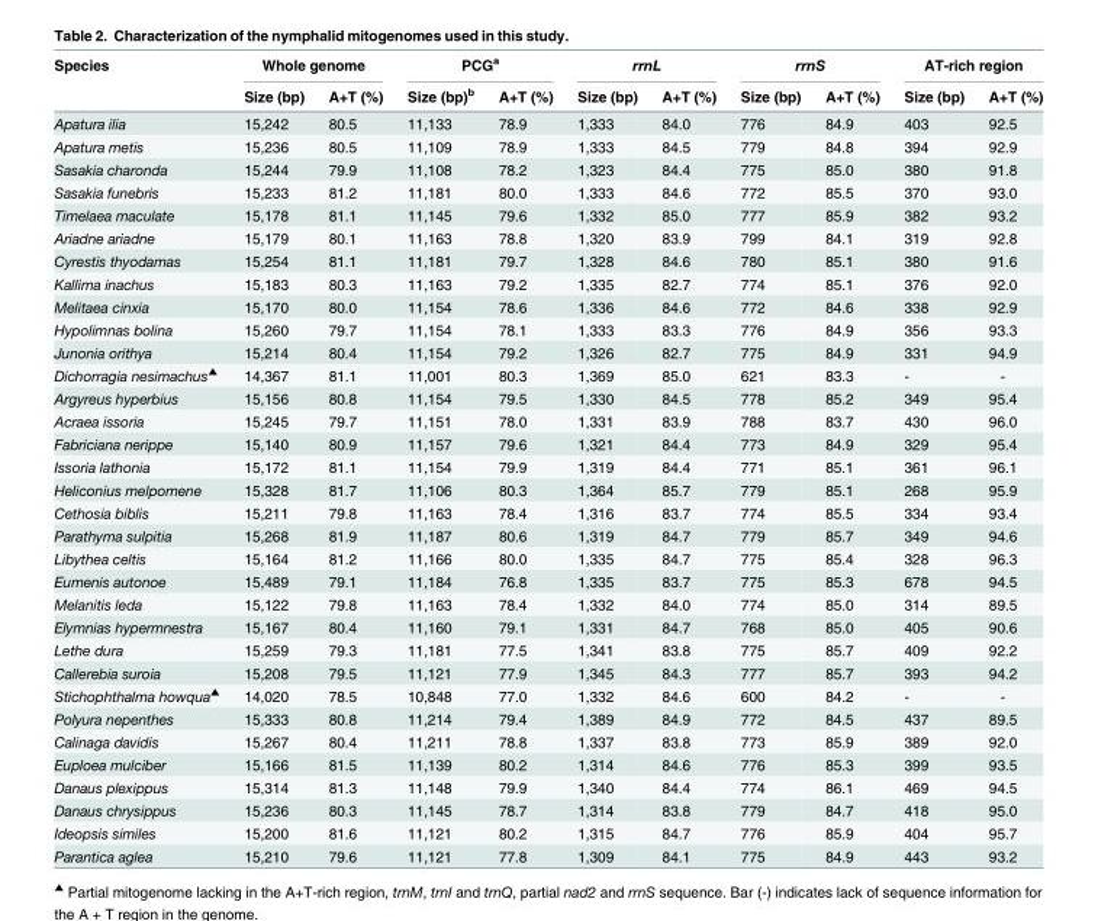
<table><thead><tr><td rowspan="2">Species</td><td colspan="2">Whole genome</td><td colspan="2">PCG<sup>a</sup></td><td colspan="2">rrnL</td><td colspan="2">rrnS</td><td colspan="2">AT-rich region</td></tr><tr><td>Size (bp)</td><td>A+T (%)</td><td>Size (bp)<sup>b</sup></td><td>A+T (%)</td><td>Size (bp)</td><td>A+T (%)</td><td>Size (bp)</td><td>A+T (%)</td><td>Size (bp)</td><td>A+T (%)</td></tr></thead><tbody><tr><td>Apatura ilia</td><td>15,242</td><td>80.5</td><td>11,133</td><td>78.9</td><td>1,333</td><td>84.0</td><td>776</td><td>84.9</td><td>403</td><td>92.5</td></tr><tr><td>Apatura metis</td><td>15,236</td><td>80.5</td><td>11,109</td><td>78.9</td><td>1,333</td><td>84.5</td><td>779</td><td>84.8</td><td>394</td><td>92.9</td></tr><tr><td>Sasakia charonda</td><td>15,244</td><td>79.9</td><td>11,108</td><td>78.2</td><td>1,323</td><td>84.4</td><td>775</td><td>85.0</td><td>380</td><td>91.8</td></tr><tr><td>Sasakia funebris</td><td>15,233</td><td>81.2</td><td>11,181</td><td>80.0</td><td>1,333</td><td>84.6</td><td>772</td><td>85.5</td><td>370</td><td>93.0</td></tr><tr><td>Timelaea maculate</td><td>15,178</td><td>81.1</td><td>11,145</td><td>79.6</td><td>1,332</td><td>85.0</td><td>777</td><td>85.9</td><td>382</td><td>93.2</td></tr><tr><td>Ariadne ariadne</td><td>15,179</td><td>80.1</td><td>11,163</td><td>78.8</td><td>1,320</td><td>83.9</td><td>799</td><td>84.1</td><td>319</td><td>92.8</td></tr><tr><td>Cyrestis thyodamas</td><td>15,254</td><td>81.1</td><td>11,181</td><td>79.7</td><td>1,328</td><td>84.6</td><td>780</td><td>85.1</td><td>380</td><td>91.6</td></tr><tr><td>Kallima inachus</td><td>15,183</td><td>80.3</td><td>11,163</td><td>79.2</td><td>1,335</td><td>82.7</td><td>774</td><td>85.1</td><td>376</td><td>92.0</td></tr><tr><td>Melitaea cinxia</td><td>15,170</td><td>80.0</td><td>11,154</td><td>78.6</td><td>1,336</td><td>84.6</td><td>772</td><td>84.6</td><td>338</td><td>92.9</td></tr><tr><td>Hypolimnas bolina</td><td>15,260</td><td>79.7</td><td>11,154</td><td>78.1</td><td>1,333</td><td>83.3</td><td>776</td><td>84.9</td><td>356</td><td>93.3</td></tr><tr><td>Junonia orithya</td><td>15,214</td><td>80.4</td><td>11,154</td><td>79.2</td><td>1,326</td><td>82.7</td><td>775</td><td>84.9</td><td>331</td><td>94.9</td></tr><tr><td>Dichorragia nesimachus<sup>▲</sup></td><td>14,367</td><td>81.1</td><td>11,001</td><td>80.3</td><td>1,369</td><td>85.0</td><td>621</td><td>83.3</td><td>-</td><td>-</td></tr><tr><td>Argyreus hyperbius</td><td>15,156</td><td>80.8</td><td>11,154</td><td>79.5</td><td>1,330</td><td>84.5</td><td>778</td><td>85.2</td><td>349</td><td>95.4</td></tr><tr><td>Acraea issoria</td><td>15,245</td><td>79.7</td><td>11,151</td><td>78.0</td><td>1,331</td><td>83.9</td><td>788</td><td>83.7</td><td>430</td><td>96.0</td></tr><tr><td>Fabriciana nerippe</td><td>15,140</td><td>80.9</td><td>11,157</td><td>79.6</td><td>1,321</td><td>84.4</td><td>773</td><td>84.9</td><td>329</td><td>95.4</td></tr><tr><td>Issoria lathonia</td><td>15,172</td><td>81.1</td><td>11,154</td><td>79.9</td><td>1,319</td><td>84.4</td><td>771</td><td>85.1</td><td>361</td><td>96.1</td></tr><tr><td>Heliconius melpomene</td><td>15,328</td><td>81.7</td><td>11,106</td><td>80.3</td><td>1,364</td><td>85.7</td><td>779</td><td>85.1</td><td>268</td><td>95.9</td></tr><tr><td>Cethosia biblis</td><td>15,211</td><td>79.8</td><td>11,163</td><td>78.4</td><td>1,316</td><td>83.7</td><td>774</td><td>85.5</td><td>334</td><td>93.4</td></tr><tr><td>Parathyma sulpitia</td><td>15,268</td><td>81.9</td><td>11,187</td><td>80.6</td><td>1,319</td><td>84.7</td><td>779</td><td>85.7</td><td>349</td><td>94.6</td></tr><tr><td>Libythea celtis</td><td>15,164</td><td>81.2</td><td>11,166</td><td>80.0</td><td>1,335</td><td>84.7</td><td>775</td><td>85.4</td><td>328</td><td>96.3</td></tr><tr><td>Eumenis autonoe</td><td>15,489</td><td>79.1</td><td>11,184</td><td>76.8</td><td>1,335</td><td>83.7</td><td>775</td><td>85.3</td><td>678</td><td>94.5</td></tr><tr><td>Melanitis leda</td><td>15,122</td><td>79.8</td><td>11,163</td><td>78.4</td><td>1,332</td><td>84.0</td><td>774</td><td>85.0</td><td>314</td><td>89.5</td></tr><tr><td>Elymnias hypermnestra</td><td>15,167</td><td>80.4</td><td>11,160</td><td>79.1</td><td>1,331</td><td>84.7</td><td>768</td><td>85.0</td><td>405</td><td>90.6</td></tr><tr><td>Lethe dura</td><td>15,259</td><td>79.3</td><td>11,181</td><td>77.5</td><td>1,341</td><td>83.8</td><td>775</td><td>85.7</td><td>409</td><td>92.2</td></tr><tr><td>Callerebia suroia</td><td>15,208</td><td>79.5</td><td>11,121</td><td>77.9</td><td>1,345</td><td>84.3</td><td>777</td><td>85.7</td><td>393</td><td>94.2</td></tr><tr><td>Stichophthalma howqua<sup>▲</sup></td><td>14,020</td><td>78.5</td><td>10,848</td><td>77.0</td><td>1,332</td><td>84.6</td><td>600</td><td>84.2</td><td>-</td><td>-</td></tr><tr><td>Polyura nepenthes</td><td>15,333</td><td>80.8</td><td>11,214</td><td>79.4</td><td>1,389</td><td>84.9</td><td>772</td><td>84.5</td><td>437</td><td>89.5</td></tr><tr><td>Calinaga davidis</td><td>15,267</td><td>80.4</td><td>11,211</td><td>78.8</td><td>1,337</td><td>83.8</td><td>773</td><td>85.9</td><td>389</td><td>92.0</td></tr><tr><td>Euploea mulciber</td><td>15,166</td><td>81.5</td><td>11,139</td><td>80.2</td><td>1,314</td><td>84.6</td><td>776</td><td>85.3</td><td>399</td><td>93.5</td></tr><tr><td>Danaus plexippus</td><td>15,314</td><td>81.3</td><td>11,148</td><td>79.9</td><td>1,340</td><td>84.4</td><td>774</td><td>86.1</td><td>469</td><td>94.5</td></tr><tr><td>Danaus chrysippus</td><td>15,236</td><td>80.3</td><td>11,145</td><td>78.7</td><td>1,314</td><td>83.8</td><td>779</td><td>84.7</td><td>418</td><td>95.0</td></tr><tr><td>Ideopsis similes</td><td>15,200</td><td>81.6</td><td>11,121</td><td>80.2</td><td>1,315</td><td>84.7</td><td>776</td><td>85.9</td><td>404</td><td>95.7</td></tr><tr><td>Parantica aglea</td><td>15,210</td><td>79.6</td><td>11,121</td><td>77.8</td><td>1,309</td><td>84.1</td><td>775</td><td>84.9</td><td>443</td><td>93.2</td></tr></tbody></table>